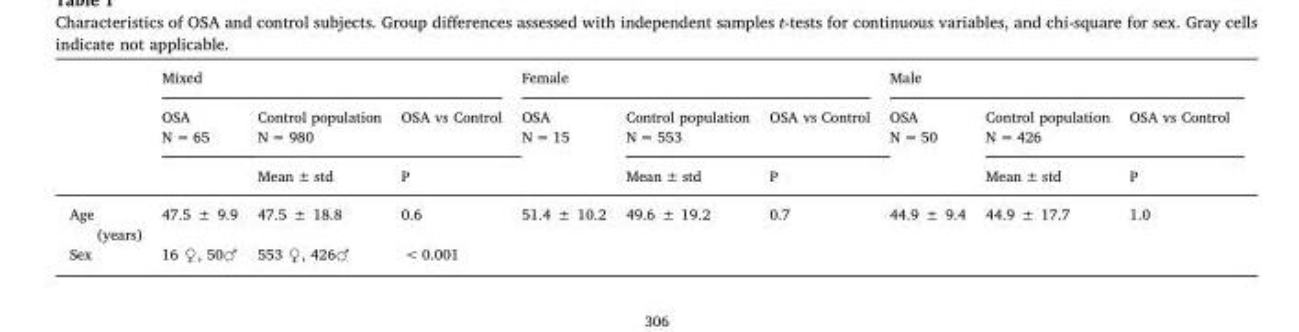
<table><thead><tr><td rowspan="3"></td><td colspan="3">Mixed</td><td colspan="3">Female</td><td colspan="3">Male</td></tr><tr><td rowspan="2">OSA N = 65</td><td rowspan="2">Control population N = 980 Mean ± std</td><td rowspan="2">OSA vs Control P</td><td rowspan="2">OSA N = 15</td><td rowspan="2">Control population N = 553 Mean ± std</td><td rowspan="2">OSA vs Control P</td><td rowspan="2">OSA N = 50</td><td rowspan="2">Control population N = 426 Mean ± std</td><td rowspan="2">OSA vs Control P</td></tr><tr></tr></thead><tbody><tr><td>Age (years)</td><td>47.5 ± 9.9</td><td>47.5 ± 18.8</td><td>0.6</td><td>51.4 ± 10.2</td><td>49.6 ± 19.2</td><td>0.7</td><td>44.9 ± 9.4</td><td>44.9 ± 17.7</td><td>1.0</td></tr><tr><td>Sex</td><td>16 ♀, 50♂</td><td>553 ♀, 426♂</td><td>&lt; 0.001</td><td></td><td></td><td></td><td></td><td></td><td></td></tr></tbody></table>